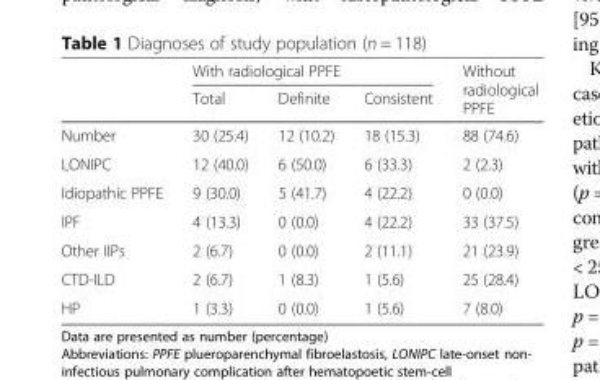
<table><thead><tr><td rowspan="2"></td><td colspan="3">With radiological PPFE</td><td rowspan="2">Without radiological PPFE</td></tr><tr><td>Total</td><td>Definite</td><td>Consistent</td></tr></thead><tbody><tr><td>Number</td><td>30 (25.4)</td><td>12 (10.2)</td><td>18 (15.3)</td><td>88 (74.6)</td></tr><tr><td>LONIPC</td><td>12 (40.0)</td><td>6 (50.0)</td><td>6 (33.3)</td><td>2 (2.3)</td></tr><tr><td>Idiopathic PPFE</td><td>9 (30.0)</td><td>5 (41.7)</td><td>4 (22.2)</td><td>0 (0.0)</td></tr><tr><td>IPF</td><td>4 (13.3)</td><td>0 (0.0)</td><td>4 (22.2)</td><td>33 (37.5)</td></tr><tr><td>Other IIPs</td><td>2 (6.7)</td><td>0 (0.0)</td><td>2 (11.1)</td><td>21 (23.9)</td></tr><tr><td>CTD-ILD</td><td>2 (6.7)</td><td>1 (8.3)</td><td>1 (5.6)</td><td>25 (28.4)</td></tr><tr><td>HP</td><td>1 (3.3)</td><td>0 (0.0)</td><td>1 (5.6)</td><td>7 (8.0)</td></tr></tbody></table>